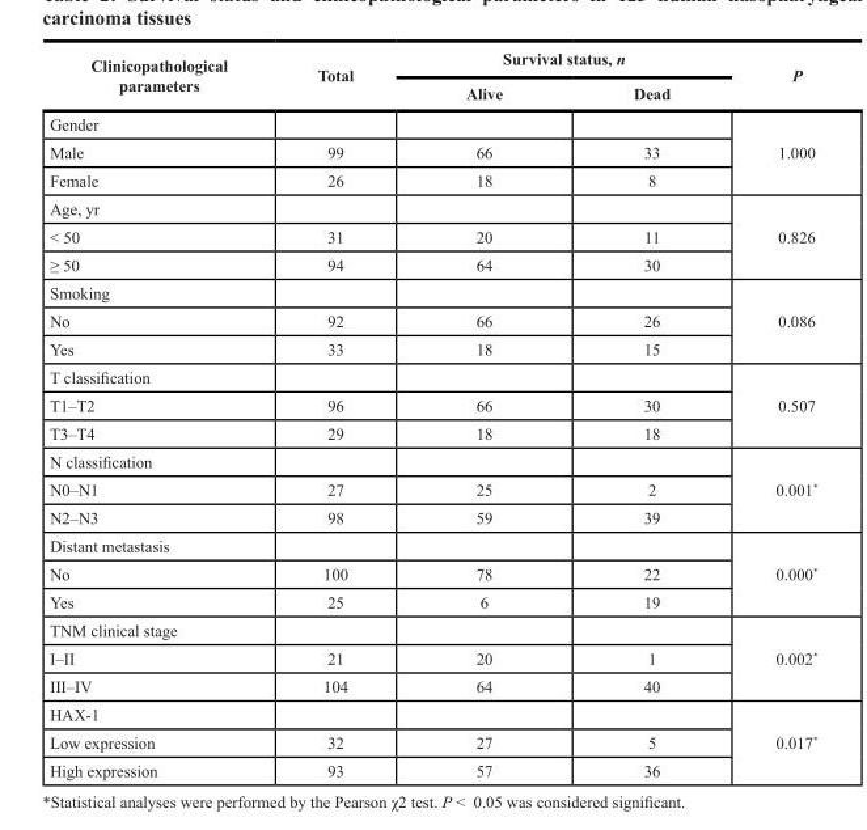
<table><thead><tr><td rowspan="2">Clinicopathological parameters</td><td rowspan="2">Total</td><td colspan="2">Survival status, n</td><td rowspan="2">P</td></tr><tr><td>Alive</td><td>Dead</td></tr></thead><tbody><tr><td colspan="4">Gender</td><td rowspan="3">1.000</td></tr><tr><td>Male</td><td>99</td><td>66</td><td>33</td></tr><tr><td>Female</td><td>26</td><td>18</td><td>8</td></tr><tr><td colspan="4">Age, yr</td><td rowspan="3">0.826</td></tr><tr><td>&lt; 50</td><td>31</td><td>20</td><td>11</td></tr><tr><td>≥ 50</td><td>94</td><td>64</td><td>30</td></tr><tr><td colspan="4">Smoking</td><td rowspan="3">0.086</td></tr><tr><td>No</td><td>92</td><td>66</td><td>26</td></tr><tr><td>Yes</td><td>33</td><td>18</td><td>15</td></tr><tr><td colspan="4">T classification</td><td rowspan="3">0.507</td></tr><tr><td>T1–T2</td><td>96</td><td>66</td><td>30</td></tr><tr><td>T3–T4</td><td>29</td><td>18</td><td>18</td></tr><tr><td colspan="4">N classification</td><td rowspan="3">0.001*</td></tr><tr><td>N0–N1</td><td>27</td><td>25</td><td>2</td></tr><tr><td>N2–N3</td><td>98</td><td>59</td><td>39</td></tr><tr><td colspan="4">Distant metastasis</td><td rowspan="3">0.000*</td></tr><tr><td>No</td><td>100</td><td>78</td><td>22</td></tr><tr><td>Yes</td><td>25</td><td>6</td><td>19</td></tr><tr><td colspan="4">TNM clinical stage</td><td rowspan="3">0.002*</td></tr><tr><td>I–II</td><td>21</td><td>20</td><td>1</td></tr><tr><td>III–IV</td><td>104</td><td>64</td><td>40</td></tr><tr><td colspan="4">HAX-1</td><td rowspan="3">0.017*</td></tr><tr><td>Low expression</td><td>32</td><td>27</td><td>5</td></tr><tr><td>High expression</td><td>93</td><td>57</td><td>36</td></tr></tbody></table>